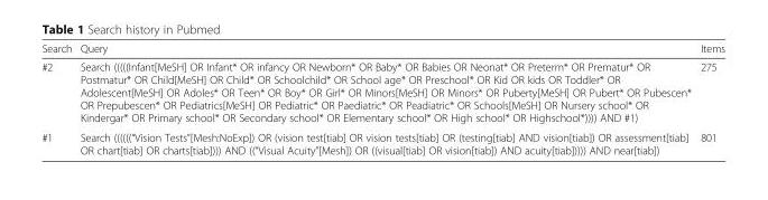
<table><thead><tr><td>Search</td><td>Query</td><td>Items</td></tr></thead><tbody><tr><td>#2</td><td>Search (((((Infant[MeSH] OR Infant* OR infancy OR Newborn* OR Baby* OR Babies OR Neonat* OR Preterm* OR Prematur* OR Postmatur* OR Child[MeSH] OR Child* OR Schoolchild* OR School age* OR Preschool* OR Kid OR kids OR Toddler* OR Adolescent[MeSH] OR Adoles* OR Teen* OR Boy* OR Girl* OR Minors[MeSH] OR Minors* OR Puberty[MeSH] OR Pubert* OR Pubescen* OR Prepubescen* OR Pediatrics[MeSH] OR Pediatric* OR Paediatric* OR Peadiatric* OR Schools[MeSH] OR Nursery school* OR Kindergar* OR Primary school* OR Secondary school* OR Elementary school* OR High school* OR Highschool*)))) AND #1)</td><td>275</td></tr><tr><td>#1</td><td>Search ((((((“Vision Tests”[Mesh:NoExp]) OR (vision test[tiab] OR vision tests[tiab] OR (testing[tiab] AND vision[tiab]) OR assessment[tiab] OR chart[tiab] OR charts[tiab]))) AND ((“Visual Acuity”[Mesh]) OR ((visual[tiab] OR vision[tiab]) AND acuity[tiab])))) AND near[tiab])</td><td>801</td></tr></tbody></table>